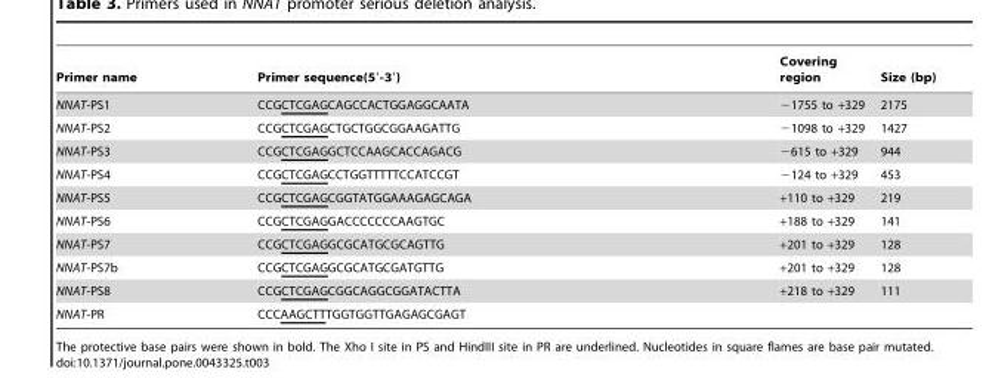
<table><thead><tr><td>Primer name</td><td>Primer sequence(5′-3′)</td><td>Covering region</td><td>Size (bp)</td></tr></thead><tbody><tr><td>NNAT-PS1</td><td>CCGCTCGAGCAGCCACTGGAGGCAATA</td><td>−1755 to +329</td><td>2175</td></tr><tr><td>NNAT-PS2</td><td>CCGCTCGAGCTGCTGGCGGAAGATTG</td><td>−1098 to +329</td><td>1427</td></tr><tr><td>NNAT-PS3</td><td>CCGCTCGAGGCTCCAAGCACCAGACG</td><td>−615 to +329</td><td>944</td></tr><tr><td>NNAT-PS4</td><td>CCGCTCGAGCCTGGTTTTTCCATCCGT</td><td>−124 to +329</td><td>453</td></tr><tr><td>NNAT-PS5</td><td>CCGCTCGAGCGGTATGGAAAGAGCAGA</td><td>+110 to +329</td><td>219</td></tr><tr><td>NNAT-PS6</td><td>CCGCTCGAGGACCCCCCCAAGTGC</td><td>+188 to +329</td><td>141</td></tr><tr><td>NNAT-PS7</td><td>CCGCTCGAGGCGCATGCGCAGTTG</td><td>+201 to +329</td><td>128</td></tr><tr><td>NNAT-PS7b</td><td>CCGCTCGAGGCGCATGCGATGTTG</td><td>+201 to +329</td><td>128</td></tr><tr><td>NNAT-PS8</td><td>CCGCTCGAGCGGCAGGCGGATACTTA</td><td>+218 to +329</td><td>111</td></tr><tr><td>NNAT-PR</td><td>CCCAAGCTTTGGTGGTTGAGAGCGAGT</td><td></td><td></td></tr></tbody></table>